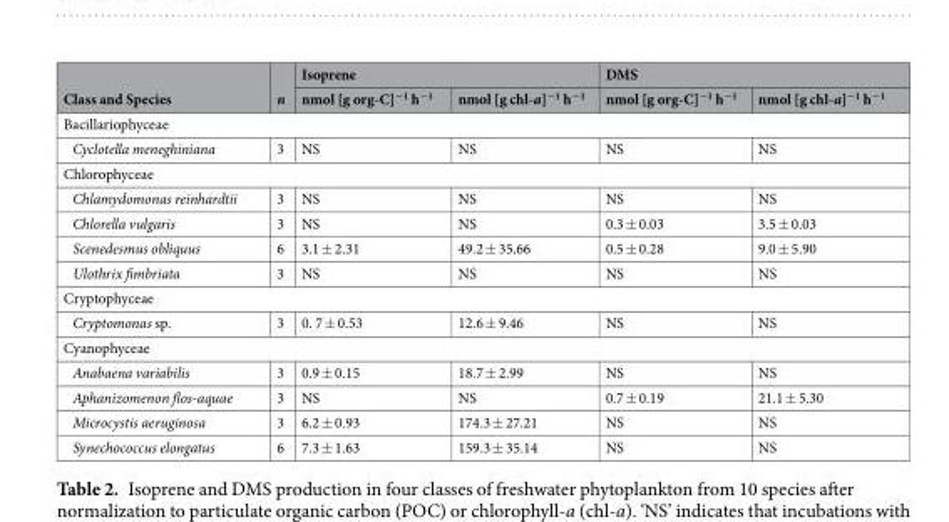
<table><thead><tr><td rowspan="2">Class and Species</td><td rowspan="2">n</td><td colspan="2">Isoprene</td><td colspan="2">DMS</td></tr><tr><td>nmol [g org-C]<sup>−1</sup> h<sup>−1</sup></td><td>nmol [g chl-a]<sup>−1</sup> h<sup>−1</sup></td><td>nmol [g org-C]<sup>−1</sup> h<sup>−1</sup></td><td>nmol [g chl-a]<sup>−1</sup> h<sup>−1</sup></td></tr></thead><tbody><tr><td colspan="6">Bacillariophyceae</td></tr><tr><td>Cyclotella meneghiniana</td><td>3</td><td>NS</td><td>NS</td><td>NS</td><td>NS</td></tr><tr><td colspan="6">Chlorophyceae</td></tr><tr><td>Chlamydomonas reinhardtii</td><td>3</td><td>NS</td><td>NS</td><td>NS</td><td>NS</td></tr><tr><td>Chlorella vulgaris</td><td>3</td><td>NS</td><td>NS</td><td>0.3 ± 0.03</td><td>3.5 ± 0.03</td></tr><tr><td>Scenedesmus obliquus</td><td>6</td><td>3.1 ± 2.31</td><td>49.2 ± 35.66</td><td>0.5 ± 0.28</td><td>9.0 ± 5.90</td></tr><tr><td>Ulothrix fimbriata</td><td>3</td><td>NS</td><td>NS</td><td>NS</td><td>NS</td></tr><tr><td colspan="6">Cryptophyceae</td></tr><tr><td>Cryptomonas sp.</td><td>3</td><td>0. 7 ± 0.53</td><td>12.6 ± 9.46</td><td>NS</td><td>NS</td></tr><tr><td colspan="6">Cyanophyceae</td></tr><tr><td>Anabaena variabilis</td><td>3</td><td>0.9 ± 0.15</td><td>18.7 ± 2.99</td><td>NS</td><td>NS</td></tr><tr><td>Aphanizomenon flos-aquae</td><td>3</td><td>NS</td><td>NS</td><td>0.7 ± 0.19</td><td>21.1 ± 5.30</td></tr><tr><td>Microcystis aeruginosa</td><td>3</td><td>6.2 ± 0.93</td><td>174.3 ± 27.21</td><td>NS</td><td>NS</td></tr><tr><td>Synechococcus elongatus</td><td>6</td><td>7.3 ± 1.63</td><td>159.3 ± 35.14</td><td>NS</td><td>NS</td></tr></tbody></table>